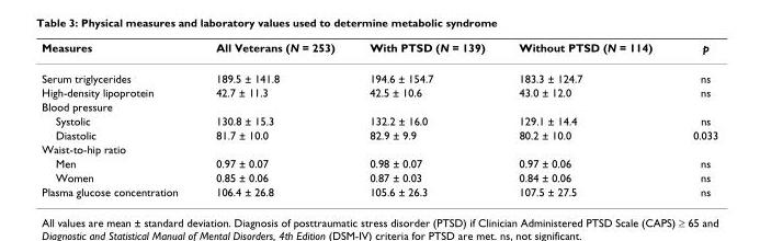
<table><thead><tr><td>Measures</td><td>All Veterans (N = 253)</td><td>With PTSD (N = 139)</td><td>Without PTSD (N = 114)</td><td>p</td></tr></thead><tbody><tr><td>Serum triglycerides</td><td>189.5 ± 141.8</td><td>194.6 ± 154.7</td><td>183.3 ± 124.7</td><td>ns</td></tr><tr><td>High-density lipoprotein</td><td>42.7 ± 11.3</td><td>42.5 ± 10.6</td><td>43.0 ± 12.0</td><td>ns</td></tr><tr><td colspan="5">Blood pressure</td></tr><tr><td>Systolic</td><td>130.8 ± 15.3</td><td>132.2 ± 16.0</td><td>129.1 ± 14.4</td><td>ns</td></tr><tr><td>Diastolic</td><td>81.7 ± 10.0</td><td>82.9 ± 9.9</td><td>80.2 ± 10.0</td><td>0.033</td></tr><tr><td colspan="5">Waist-to-hip ratio</td></tr><tr><td>Men</td><td>0.97 ± 0.07</td><td>0.98 ± 0.07</td><td>0.97 ± 0.06</td><td>ns</td></tr><tr><td>Women</td><td>0.85 ± 0.06</td><td>0.87 ± 0.03</td><td>0.84 ± 0.06</td><td>ns</td></tr><tr><td>Plasma glucose concentration</td><td>106.4 ± 26.8</td><td>105.6 ± 26.3</td><td>107.5 ± 27.5</td><td>ns</td></tr></tbody></table>